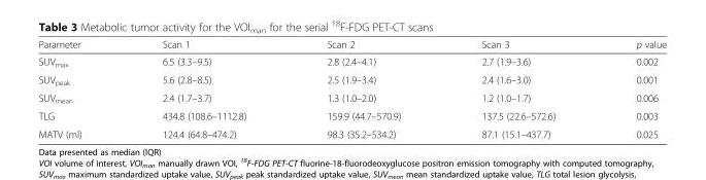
<table><thead><tr><td>Parameter</td><td>Scan 1</td><td>Scan 2</td><td>Scan 3</td><td>p value</td></tr></thead><tbody><tr><td>SUV<sub>max</sub></td><td>6.5 (3.3–9.5)</td><td>2.8 (2.4–4.1)</td><td>2.7 (1.9–3.6)</td><td>0.002</td></tr><tr><td>SUV<sub>peak</sub></td><td>5.6 (2.8–8.5)</td><td>2.5 (1.9–3.4)</td><td>2.4 (1.6–3.0)</td><td>0.001</td></tr><tr><td>SUV<sub>mean</sub></td><td>2.4 (1.7–3.7)</td><td>1.3 (1.0–2.0)</td><td>1.2 (1.0–1.7)</td><td>0.006</td></tr><tr><td>TLG</td><td>434.8 (108.6–1112.8)</td><td>159.9 (44.7–570.9)</td><td>137.5 (22.6–572.6)</td><td>0.003</td></tr><tr><td>MATV (ml)</td><td>124.4 (64.8–474.2)</td><td>98.3 (35.2–534.2)</td><td>87.1 (15.1–437.7)</td><td>0.025</td></tr></tbody></table>